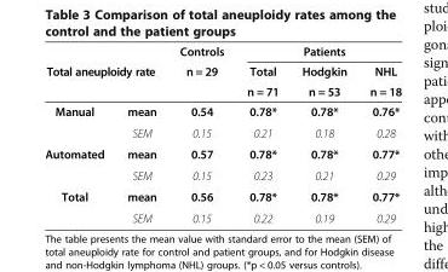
<table><thead><tr><td></td><td></td><td rowspan="3">Controls n = 29</td><td colspan="3">Patients</td></tr><tr><td colspan="2">Total aneuploidy rate</td><td rowspan="2">Total n = 71</td><td rowspan="2">Hodgkin n = 53</td><td rowspan="2">NHL n = 18</td></tr><tr><td></td><td></td></tr></thead><tbody><tr><td rowspan="2">Manual</td><td>mean</td><td>0.54</td><td>0.78*</td><td>0.78*</td><td>0.76*</td></tr><tr><td>SEM</td><td>0.15</td><td>0.21</td><td>0.18</td><td>0.28</td></tr><tr><td rowspan="2">Automated</td><td>mean</td><td>0.57</td><td>0.78*</td><td>0.78*</td><td>0.77*</td></tr><tr><td>SEM</td><td>0.15</td><td>0.23</td><td>0.21</td><td>0.29</td></tr><tr><td rowspan="2">Total</td><td>mean</td><td>0.56</td><td>0.78*</td><td>0.78*</td><td>0.77*</td></tr><tr><td>SEM</td><td>0.15</td><td>0.22</td><td>0.19</td><td>0.29</td></tr></tbody></table>